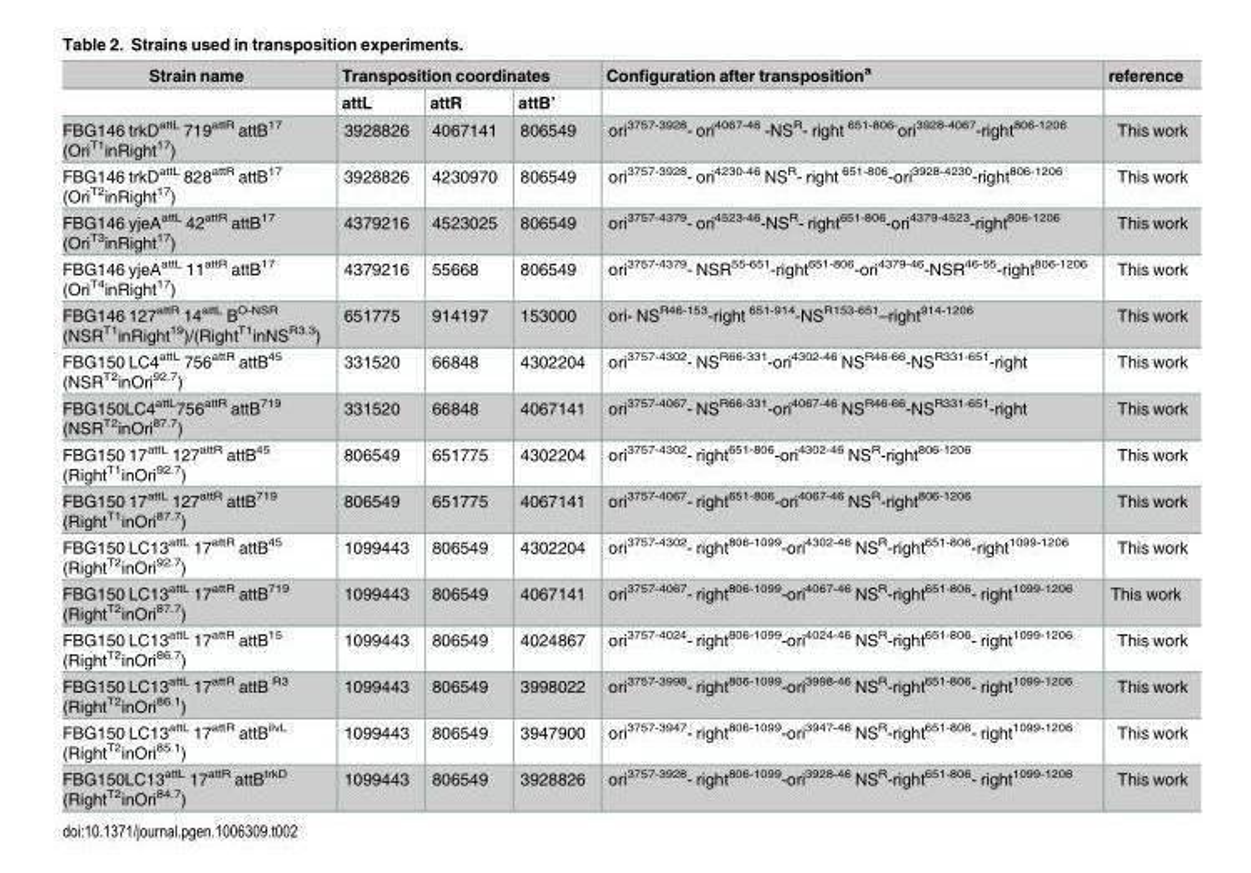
<table><thead><tr><td rowspan="2">Strain name</td><td colspan="3">Transposition coordinates</td><td rowspan="2">Configuration after transposition<sup>a</sup></td><td rowspan="2">reference</td></tr><tr><td>attL</td><td>attR</td><td>attB’</td></tr></thead><tbody><tr><td>FBG146 trkD<sup>attL</sup> 719<sup>attR</sup> attB<sup>17</sup> (Ori<sup>T1</sup>inRight<sup>17</sup>)</td><td>3928826</td><td>4067141</td><td>806549</td><td>ori<sup>3757-3928</sup>- ori<sup>4067-46</sup> -NS<sup>R</sup>- right <sup>651-806-</sup>ori<sup>3928-4067</sup>-right<sup>806-1206</sup></td><td>This work</td></tr><tr><td>FBG146 trkD<sup>attL</sup> 828<sup>attR</sup> attB<sup>17</sup> (Ori<sup>T2</sup>inRight<sup>17</sup>)</td><td>3928826</td><td>4230970</td><td>806549</td><td>ori<sup>3757-3928</sup>- ori<sup>4230-46</sup> NS<sup>R</sup>- right <sup>651-806</sup>-ori<sup>3928-4230</sup>-right<sup>806-1206</sup></td><td>This work</td></tr><tr><td>FBG146 yjeA<sup>attL</sup> 42<sup>attR</sup> attB<sup>17</sup> (Ori<sup>T3</sup>inRight<sup>17</sup>)</td><td>4379216</td><td>4523025</td><td>806549</td><td>ori<sup>3757-4379</sup>- ori<sup>4523-46</sup>-NS<sup>R</sup>- right<sup>651-806</sup>-ori<sup>4379-4523</sup>-right<sup>806-1206</sup></td><td>This work</td></tr><tr><td>FBG146 yjeA<sup>attL</sup> 11<sup>attR</sup> attB<sup>17</sup> (Ori<sup>T4</sup>inRight<sup>17</sup>)</td><td>4379216</td><td>55668</td><td>806549</td><td>ori<sup>3757-4379</sup>- NSR<sup>55-651</sup>-right<sup>651-806</sup>-ori<sup>4379-46</sup>-NSR<sup>46-55</sup>-right<sup>806-1206</sup></td><td>This work</td></tr><tr><td>FBG146 127<sup>attR</sup> 14<sup>attL</sup> B<sup>O-NSR</sup> (NSR<sup>T1</sup>inRight<sup>19</sup>)/(Right<sup>T1</sup>inNS<sup>R3.3</sup>)</td><td>651775</td><td>914197</td><td>153000</td><td>ori- NS<sup>R46-153</sup>-right <sup>651-914</sup>-NS<sup>R153-651</sup>–right<sup>914-1206</sup></td><td>This work</td></tr><tr><td>FBG150 LC4<sup>attL</sup> 756<sup>attR</sup> attB<sup>45</sup> (NSR<sup>T2</sup>inOri<sup>92.7</sup>)</td><td>331520</td><td>66848</td><td>4302204</td><td>ori<sup>3757-4302</sup>- NS<sup>R66-331</sup>-ori<sup>4302-46</sup> NS<sup>R46-66</sup>-NS<sup>R331-651</sup>-right</td><td>This work</td></tr><tr><td>FBG150LC4<sup>attL</sup>756<sup>attR</sup> attB<sup>719</sup> (NSR<sup>T2</sup>inOri<sup>87.7</sup>)</td><td>331520</td><td>66848</td><td>4067141</td><td>ori<sup>3757-4067</sup>- NS<sup>R66-331</sup>-ori<sup>4067-46</sup> NS<sup>R46-66</sup>-NS<sup>R331-651</sup>-right</td><td>This work</td></tr><tr><td>FBG150 17<sup>attL</sup> 127<sup>attR</sup> attB<sup>45</sup> (Right<sup>T1</sup>inOri<sup>92.7</sup>)</td><td>806549</td><td>651775</td><td>4302204</td><td>ori<sup>3757-4302</sup>- right<sup>651-806</sup>-ori<sup>4302-46</sup> NS<sup>R</sup>-right<sup>806-1206</sup></td><td>This work</td></tr><tr><td>FBG150 17<sup>attL</sup> 127<sup>attR</sup> attB<sup>719</sup> (Right<sup>T1</sup>inOri<sup>87.7</sup>)</td><td>806549</td><td>651775</td><td>4067141</td><td>ori<sup>3757-4067</sup>- right<sup>651-806</sup>-ori<sup>4067-46</sup> NS<sup>R</sup>-right<sup>806-1206</sup></td><td>This work</td></tr><tr><td>FBG150 LC13<sup>attL</sup> 17<sup>attR</sup> attB<sup>45</sup> (Right<sup>T2</sup>inOri<sup>92.7</sup>)</td><td>1099443</td><td>806549</td><td>4302204</td><td>ori<sup>3757-4302</sup>- right<sup>806-1099</sup>-ori<sup>4302-46</sup> NS<sup>R</sup>-right<sup>651-806</sup>-right<sup>1099-1206</sup></td><td>This work</td></tr><tr><td>FBG150 LC13<sup>attL</sup> 17<sup>attR</sup> attB<sup>719</sup> (Right<sup>T2</sup>inOri<sup>87.7</sup>)</td><td>1099443</td><td>806549</td><td>4067141</td><td>ori<sup>3757-4067</sup>- right<sup>806-1099</sup>-ori<sup>4067-46</sup> NS<sup>R</sup>-right<sup>651-806</sup>- right<sup>1099-1206</sup></td><td>This work</td></tr><tr><td>FBG150 LC13<sup>attL</sup> 17<sup>attR</sup> attB<sup>15</sup> (Right<sup>T2</sup>inOri<sup>86.7</sup>)</td><td>1099443</td><td>806549</td><td>4024867</td><td>ori<sup>3757-4024</sup>- right<sup>806-1099</sup>-ori<sup>4024-46</sup> NS<sup>R</sup>-right<sup>651-806</sup>- right<sup>1099-1206</sup></td><td>This work</td></tr><tr><td>FBG150 LC13<sup>attL</sup> 17<sup>attR</sup> attB <sup>R3</sup> (Right<sup>T2</sup>inOri<sup>86.1</sup>)</td><td>1099443</td><td>806549</td><td>3998022</td><td>ori<sup>3757-3998</sup>- right<sup>806-1099</sup>-ori<sup>3998-46</sup> NS<sup>R</sup>-right<sup>651-806</sup>- right<sup>1099-1206</sup></td><td>This work</td></tr><tr><td>FBG150 LC13<sup>attL</sup> 17<sup>attR</sup> attB<sup>ilvL</sup> (Right<sup>T2</sup>inOri<sup>85.1</sup>)</td><td>1099443</td><td>806549</td><td>3947900</td><td>ori<sup>3757-3947</sup>- right<sup>806-1099</sup>-ori<sup>3947-46</sup> NS<sup>R</sup>-right<sup>651-806</sup>- right<sup>1099-1206</sup></td><td>This work</td></tr><tr><td>FBG150LC13<sup>attL</sup> 17<sup>attR</sup> attB<sup>trkD</sup> (Right<sup>T2</sup>inOri<sup>84.7</sup>)</td><td>1099443</td><td>806549</td><td>3928826</td><td>ori<sup>3757-3928</sup>- right<sup>806-1099</sup>-ori<sup>3928-46</sup> NS<sup>R</sup>-right<sup>651-806</sup>- right<sup>1099-1206</sup></td><td>This work</td></tr></tbody></table>